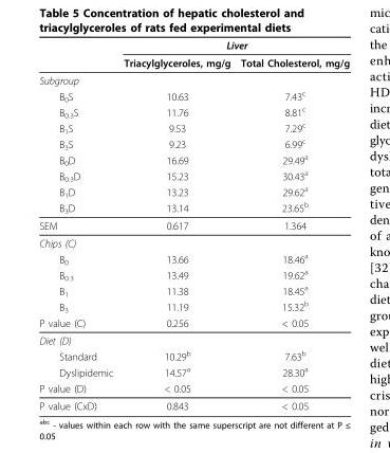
<table><thead><tr><td rowspan="2"></td><td colspan="2">Liver</td></tr><tr><td>Triacylglyceroles, mg/g</td><td>Total Cholesterol, mg/g</td></tr></thead><tbody><tr><td colspan="3">Subgroup</td></tr><tr><td>B<sub>0</sub>S</td><td>10.63</td><td>7.43<sup>c</sup></td></tr><tr><td>B<sub>0.3</sub>S</td><td>11.76</td><td>8.81<sup>c</sup></td></tr><tr><td>B<sub>1</sub>S</td><td>9.53</td><td>7.29<sup>c</sup></td></tr><tr><td>B<sub>3</sub>S</td><td>9.23</td><td>6.99<sup>c</sup></td></tr><tr><td>B<sub>0</sub>D</td><td>16.69</td><td>29.49<sup>a</sup></td></tr><tr><td>B<sub>0.3</sub>D</td><td>15.23</td><td>30.43<sup>a</sup></td></tr><tr><td>B<sub>1</sub>D</td><td>13.23</td><td>29.62<sup>a</sup></td></tr><tr><td>B<sub>3</sub>D</td><td>13.14</td><td>23.65<sup>b</sup></td></tr><tr><td>SEM</td><td>0.617</td><td>1.364</td></tr><tr><td colspan="3">Chips (C)</td></tr><tr><td>B<sub>0</sub></td><td>13.66</td><td>18.46<sup>a</sup></td></tr><tr><td>B<sub>0.3</sub></td><td>13.49</td><td>19.62<sup>a</sup></td></tr><tr><td>B<sub>1</sub></td><td>11.38</td><td>18.45<sup>a</sup></td></tr><tr><td>B<sub>3</sub></td><td>11.19</td><td>15.32<sup>b</sup></td></tr><tr><td>P value (C)</td><td>0.256</td><td>&lt; 0.05</td></tr><tr><td colspan="3">Diet (D)</td></tr><tr><td>Standard</td><td>10.29<sup>b</sup></td><td>7.63<sup>b</sup></td></tr><tr><td>Dyslipidemic</td><td>14.57<sup>a</sup></td><td>28.30<sup>a</sup></td></tr><tr><td>P value (D)</td><td>&lt; 0.05</td><td>&lt; 0.05</td></tr><tr><td>P value (CxD)</td><td>0.843</td><td>&lt; 0.05</td></tr></tbody></table>